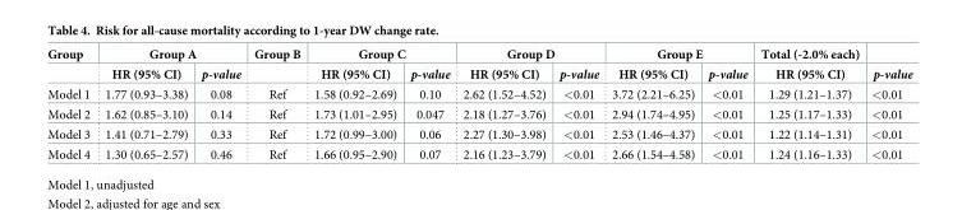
<table><thead><tr><td rowspan="2">Group</td><td colspan="2">Group A</td><td rowspan="2">Group B</td><td colspan="2">Group C</td><td colspan="2">Group D</td><td colspan="2">Group E</td><td rowspan="2">Total (-2.0% each) HR (95% CI)</td><td rowspan="2">p-value</td></tr><tr><td>HR (95% CI)</td><td>p-value</td><td>HR (95% CI)</td><td>p-value</td><td>HR (95% CI)</td><td>p-value</td><td>HR (95% CI)</td><td>p-value</td></tr></thead><tbody><tr><td>Model 1</td><td>1.77 (0.93–3.38)</td><td>0.08</td><td>Ref</td><td>1.58 (0.92–2.69)</td><td>0.10</td><td>2.62 (1.52–4.52)</td><td>&lt;0.01</td><td>3.72 (2.21–6.25)</td><td>&lt;0.01</td><td>1.29 (1.21–1.37)</td><td>&lt;0.01</td></tr><tr><td>Model 2</td><td>1.62 (0.85–3.10)</td><td>0.14</td><td>Ref</td><td>1.73 (1.01–2.95)</td><td>0.047</td><td>2.18 (1.27–3.76)</td><td>&lt;0.01</td><td>2.94 (1.74–4.95)</td><td>&lt;0.01</td><td>1.25 (1.17–1.33)</td><td>&lt;0.01</td></tr><tr><td>Model 3</td><td>1.41 (0.71–2.79)</td><td>0.33</td><td>Ref</td><td>1.72 (0.99–3.00)</td><td>0.06</td><td>2.27 (1.30–3.98)</td><td>&lt;0.01</td><td>2.53 (1.46–4.37)</td><td>&lt;0.01</td><td>1.22 (1.14–1.31)</td><td>&lt;0.01</td></tr><tr><td>Model 4</td><td>1.30 (0.65–2.57)</td><td>0.46</td><td>Ref</td><td>1.66 (0.95–2.90)</td><td>0.07</td><td>2.16 (1.23–3.79)</td><td>&lt;0.01</td><td>2.66 (1.54–4.58)</td><td>&lt;0.01</td><td>1.24 (1.16–1.33)</td><td>&lt;0.01</td></tr></tbody></table>